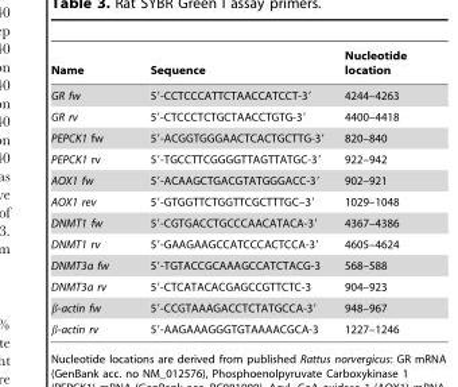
<table><thead><tr><td>Name</td><td>Sequence</td><td>Nucleotide location</td></tr></thead><tbody><tr><td>GR fw</td><td>5′-CCTCCCATTCTAACCATCCT-3′</td><td>4244–4263</td></tr><tr><td>GR rv</td><td>5′-CTCCCTCTGCTAACCTGTG-3′</td><td>4400–4418</td></tr><tr><td>PEPCK1 fw</td><td>5′-ACGGTGGGAACTCACTGCTTG-3′</td><td>820–840</td></tr><tr><td>PEPCK1 rv</td><td>5′-TGCCTTCGGGGTTAGTTATGC-3′</td><td>922–942</td></tr><tr><td>AOX1 fw</td><td>5′-ACAAGCTGACGTATGGGACC-3′</td><td>902–921</td></tr><tr><td>AOX1 rev</td><td>5′-GTGGTTCTGGTTCGCTTTGC–3′</td><td>1029–1048</td></tr><tr><td>DNMT1 fw</td><td>5′-CGTGACCTGCCCAACATACA-3′</td><td>4367–4386</td></tr><tr><td>DNMT1 rv</td><td>5′-GAAGAAGCCATCCCACTCCA-3′</td><td>4605–4624</td></tr><tr><td>DNMT3a fw</td><td>59-TGTACCGCAAAGCCATCTACG-3</td><td>568–588</td></tr><tr><td>DNMT3a rv</td><td>59-CTCATACACGAGCCGTTCTC-3</td><td>904–923</td></tr><tr><td>β-actin fw</td><td>5′-CCGTAAAGACCTCTATGCCA-3′</td><td>948–967</td></tr><tr><td>β-actin rv</td><td>5′-AAGAAAGGGTGTAAAACGCA-3</td><td>1227–1246</td></tr></tbody></table>